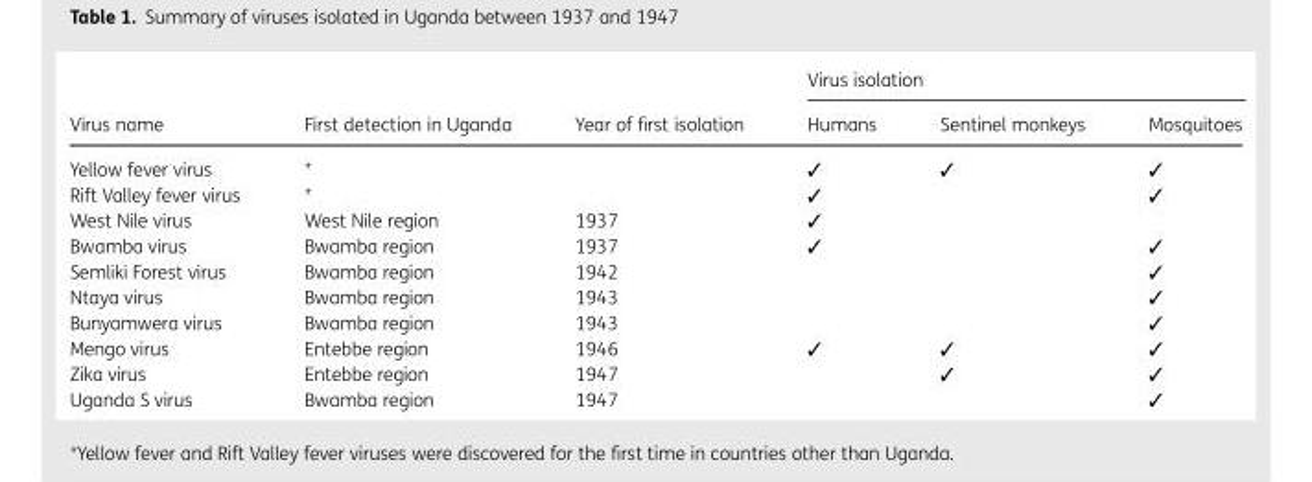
<table><thead><tr><td rowspan="2">Virus name</td><td rowspan="2">First detection in Uganda</td><td rowspan="2">Year of first isolation</td><td colspan="3">Virus isolation</td></tr><tr><td>Humans</td><td>Sentinel monkeys</td><td>Mosquitoes</td></tr></thead><tbody><tr><td>Yellow fever virus</td><td>*</td><td></td><td>✓</td><td>✓</td><td>✓</td></tr><tr><td>Rift Valley fever virus</td><td>*</td><td></td><td>✓</td><td></td><td>✓</td></tr><tr><td>West Nile virus</td><td>West Nile region</td><td>1937</td><td>✓</td><td></td><td></td></tr><tr><td>Bwamba virus</td><td>Bwamba region</td><td>1937</td><td>✓</td><td></td><td>✓</td></tr><tr><td>Semliki Forest virus</td><td>Bwamba region</td><td>1942</td><td></td><td></td><td>✓</td></tr><tr><td>Ntaya virus</td><td>Bwamba region</td><td>1943</td><td></td><td></td><td>✓</td></tr><tr><td>Bunyamwera virus</td><td>Bwamba region</td><td>1943</td><td></td><td></td><td>✓</td></tr><tr><td>Mengo virus</td><td>Entebbe region</td><td>1946</td><td>✓</td><td>✓</td><td>✓</td></tr><tr><td>Zika virus</td><td>Entebbe region</td><td>1947</td><td></td><td>✓</td><td>✓</td></tr><tr><td>Uganda S virus</td><td>Bwamba region</td><td>1947</td><td></td><td></td><td>✓</td></tr></tbody></table>